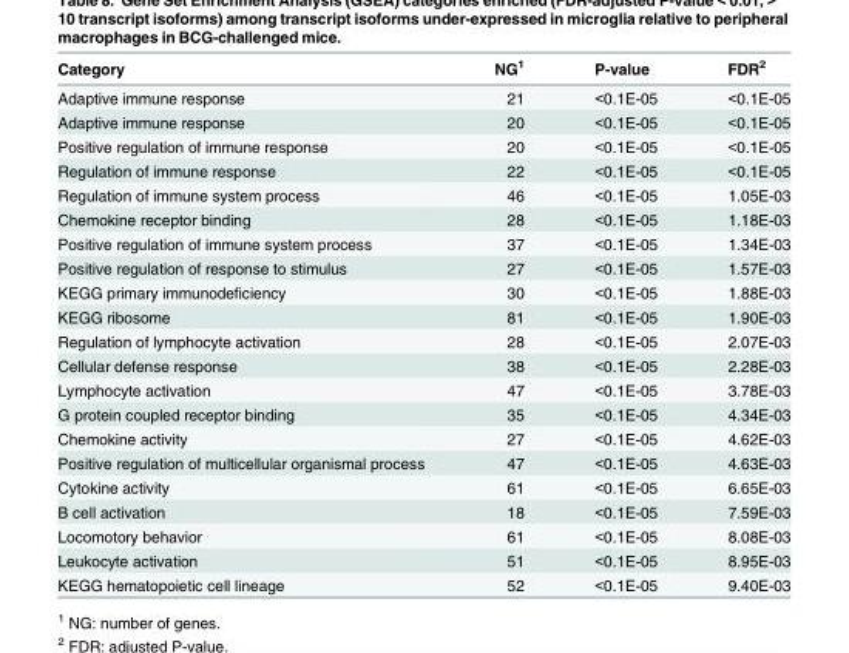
<table><thead><tr><td>Category</td><td>NG<sup>1</sup></td><td>P-value</td><td>FDR<sup>2</sup></td></tr></thead><tbody><tr><td>Adaptive immune response</td><td>21</td><td>&lt;0.1E-05</td><td>&lt;0.1E-05</td></tr><tr><td>Adaptive immune response</td><td>20</td><td>&lt;0.1E-05</td><td>&lt;0.1E-05</td></tr><tr><td>Positive regulation of immune response</td><td>20</td><td>&lt;0.1E-05</td><td>&lt;0.1E-05</td></tr><tr><td>Regulation of immune response</td><td>22</td><td>&lt;0.1E-05</td><td>&lt;0.1E-05</td></tr><tr><td>Regulation of immune system process</td><td>46</td><td>&lt;0.1E-05</td><td>1.05E-03</td></tr><tr><td>Chemokine receptor binding</td><td>28</td><td>&lt;0.1E-05</td><td>1.18E-03</td></tr><tr><td>Positive regulation of immune system process</td><td>37</td><td>&lt;0.1E-05</td><td>1.34E-03</td></tr><tr><td>Positive regulation of response to stimulus</td><td>27</td><td>&lt;0.1E-05</td><td>1.57E-03</td></tr><tr><td>KEGG primary immunodeficiency</td><td>30</td><td>&lt;0.1E-05</td><td>1.88E-03</td></tr><tr><td>KEGG ribosome</td><td>81</td><td>&lt;0.1E-05</td><td>1.90E-03</td></tr><tr><td>Regulation of lymphocyte activation</td><td>28</td><td>&lt;0.1E-05</td><td>2.07E-03</td></tr><tr><td>Cellular defense response</td><td>38</td><td>&lt;0.1E-05</td><td>2.28E-03</td></tr><tr><td>Lymphocyte activation</td><td>47</td><td>&lt;0.1E-05</td><td>3.78E-03</td></tr><tr><td>G protein coupled receptor binding</td><td>35</td><td>&lt;0.1E-05</td><td>4.34E-03</td></tr><tr><td>Chemokine activity</td><td>27</td><td>&lt;0.1E-05</td><td>4.62E-03</td></tr><tr><td>Positive regulation of multicellular organismal process</td><td>47</td><td>&lt;0.1E-05</td><td>4.63E-03</td></tr><tr><td>Cytokine activity</td><td>61</td><td>&lt;0.1E-05</td><td>6.65E-03</td></tr><tr><td>B cell activation</td><td>18</td><td>&lt;0.1E-05</td><td>7.59E-03</td></tr><tr><td>Locomotory behavior</td><td>61</td><td>&lt;0.1E-05</td><td>8.08E-03</td></tr><tr><td>Leukocyte activation</td><td>51</td><td>&lt;0.1E-05</td><td>8.95E-03</td></tr><tr><td>KEGG hematopoietic cell lineage</td><td>52</td><td>&lt;0.1E-05</td><td>9.40E-03</td></tr></tbody></table>